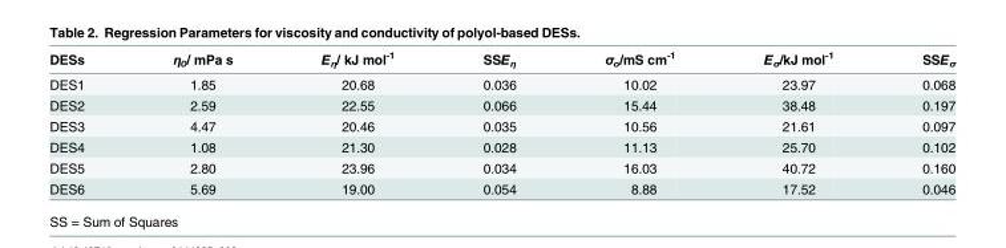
<table><thead><tr><td>DESs</td><td>η<sub>0</sub>/ mPa s</td><td>E<sub>η</sub>/ kJ mol<sup>-1</sup></td><td>SSE<sub>η</sub></td><td>σ<sub>o</sub>/mS cm<sup>-1</sup></td><td>E<sub>σ</sub>/kJ mol<sup>-1</sup></td><td>SSE<sub>σ</sub></td></tr></thead><tbody><tr><td>DES1</td><td>1.85</td><td>20.68</td><td>0.036</td><td>10.02</td><td>23.97</td><td>0.068</td></tr><tr><td>DES2</td><td>2.59</td><td>22.55</td><td>0.066</td><td>15.44</td><td>38.48</td><td>0.197</td></tr><tr><td>DES3</td><td>4.47</td><td>20.46</td><td>0.035</td><td>10.56</td><td>21.61</td><td>0.097</td></tr><tr><td>DES4</td><td>1.08</td><td>21.30</td><td>0.028</td><td>11.13</td><td>25.70</td><td>0.102</td></tr><tr><td>DES5</td><td>2.80</td><td>23.96</td><td>0.034</td><td>16.03</td><td>40.72</td><td>0.160</td></tr><tr><td>DES6</td><td>5.69</td><td>19.00</td><td>0.054</td><td>8.88</td><td>17.52</td><td>0.046</td></tr></tbody></table>